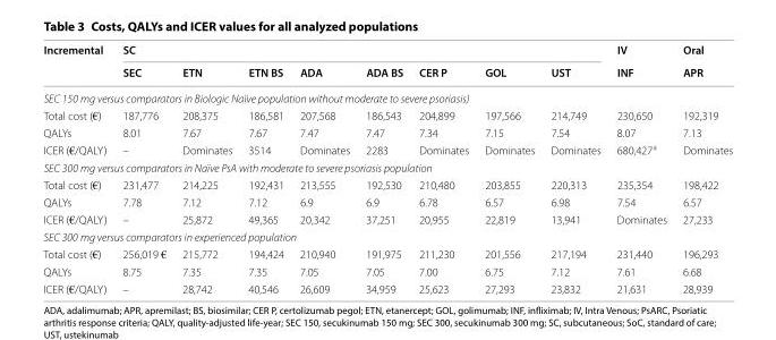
<table><thead><tr><td rowspan="2">Incremental</td><td colspan="8">SC</td><td rowspan="2">IV INF</td><td rowspan="2">Oral APR</td></tr><tr><td>SEC</td><td>ETN</td><td>ETN BS</td><td>ADA</td><td>ADA BS</td><td>CER P</td><td>GOL</td><td>UST</td></tr></thead><tbody><tr><td colspan="11">SEC 150 mg versus comparators in Biologic Naïve population without moderate to severe psoriasis)</td></tr><tr><td>Total cost (€)</td><td>187,776</td><td>208,375</td><td>186,581</td><td>207,568</td><td>186,543</td><td>204,899</td><td>197,566</td><td>214,749</td><td>230,650</td><td>192,319</td></tr><tr><td>QALYs</td><td>8.01</td><td>7.67</td><td>7.67</td><td>7.47</td><td>7.47</td><td>7.34</td><td>7.15</td><td>7.54</td><td>8.07</td><td>7.13</td></tr><tr><td>ICER (€/QALY)</td><td>–</td><td>Dominates</td><td>3514</td><td>Dominates</td><td>2283</td><td>Dominates</td><td>Dominates</td><td>Dominates</td><td>680,427<sup>a</sup></td><td>Dominates</td></tr><tr><td colspan="11">SEC 300 mg versus comparators in Naïve PsA with moderate to severe psoriasis population</td></tr><tr><td>Total cost (€)</td><td>231,477</td><td>214,225</td><td>192,431</td><td>213,555</td><td>192,530</td><td>210,480</td><td>203,855</td><td>220,313</td><td>235,354</td><td>198,422</td></tr><tr><td>QALYs</td><td>7.78</td><td>7.12</td><td>7.12</td><td>6.9</td><td>6.9</td><td>6.78</td><td>6.57</td><td>6.98</td><td>7.54</td><td>6.57</td></tr><tr><td>ICER (€/QALY)</td><td>–</td><td>25,872</td><td>49,365</td><td>20,342</td><td>37,251</td><td>20,955</td><td>22,819</td><td>13,941</td><td>Dominates</td><td>27,233</td></tr><tr><td colspan="11">SEC 300 mg versus comparators in experienced population</td></tr><tr><td>Total cost (€)</td><td>256,019 €</td><td>215,772</td><td>194,424</td><td>210,940</td><td>191,975</td><td>211,230</td><td>201,556</td><td>217,194</td><td>231,440</td><td>196,293</td></tr><tr><td>QALYs</td><td>8.75</td><td>7.35</td><td>7.35</td><td>7.05</td><td>7.05</td><td>7.00</td><td>6.75</td><td>7.12</td><td>7.61</td><td>6.68</td></tr><tr><td>ICER (€/QALY)</td><td>–</td><td>28,742</td><td>40,546</td><td>26,609</td><td>34,959</td><td>25,623</td><td>27,293</td><td>23,832</td><td>21,631</td><td>28,939</td></tr></tbody></table>